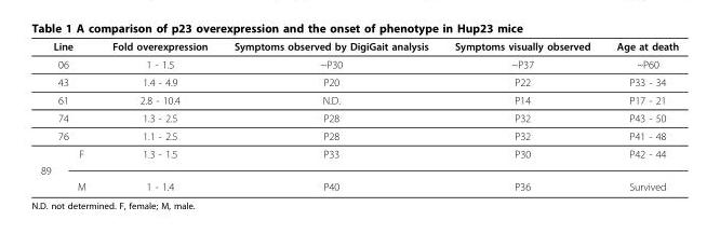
<table><thead><tr><td colspan="2">Line</td><td>Fold overexpression</td><td>Symptoms observed by DigiGait analysis</td><td>Symptoms visually observed</td><td>Age at death</td></tr></thead><tbody><tr><td colspan="2">06</td><td>1 - 1.5</td><td>~P30</td><td>~P37</td><td>~P60</td></tr><tr><td colspan="2">43</td><td>1.4 - 4.9</td><td>P20</td><td>P22</td><td>P33 - 34</td></tr><tr><td colspan="2">61</td><td>2.8 - 10.4</td><td>N.D.</td><td>P14</td><td>P17 - 21</td></tr><tr><td colspan="2">74</td><td>1.3 - 2.5</td><td>P28</td><td>P32</td><td>P43 - 50</td></tr><tr><td colspan="2">76</td><td>1.1 - 2.5</td><td>P28</td><td>P32</td><td>P41 - 48</td></tr><tr><td></td><td>F</td><td>1.3 - 1.5</td><td>P33</td><td>P30</td><td>P42 - 44</td></tr><tr><td colspan="6">89</td></tr><tr><td></td><td>M</td><td>1 - 1.4</td><td>P40</td><td>P36</td><td>Survived</td></tr></tbody></table>